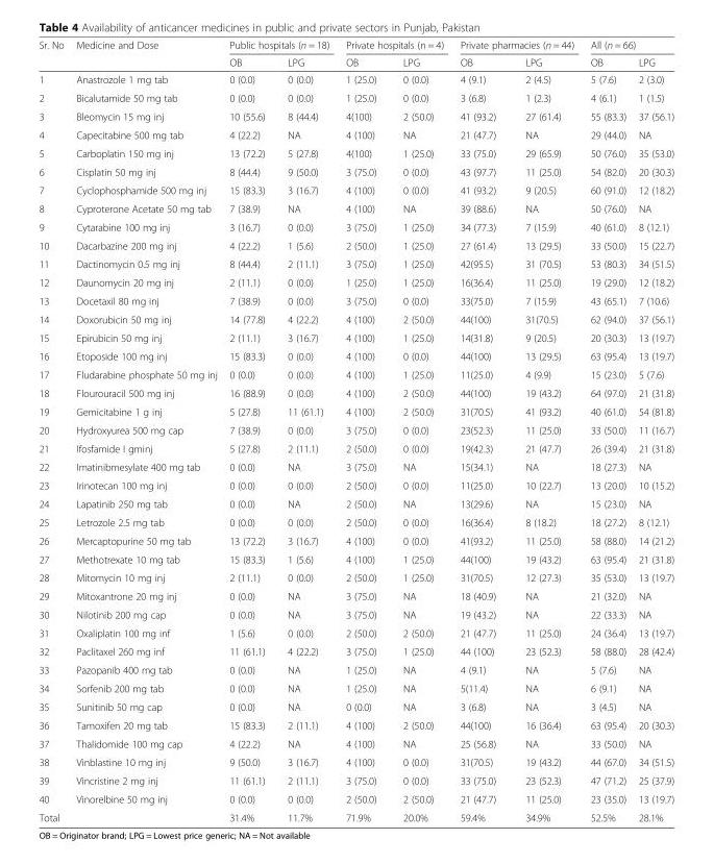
<table><thead><tr><td rowspan="2">Sr. No</td><td rowspan="2">Medicine and Dose</td><td colspan="2">Public hospitals (n = 18)</td><td colspan="2">Private hospitals (n = 4)</td><td colspan="2">Private pharmacies (n = 44)</td><td colspan="2">All (n = 66)</td></tr><tr><td>OB</td><td>LPG</td><td>OB</td><td>LPG</td><td>OB</td><td>LPG</td><td>OB</td><td>LPG</td></tr></thead><tbody><tr><td>1</td><td>Anastrozole 1 mg tab</td><td>0 (0.0)</td><td>0 (0.0)</td><td>1 (25.0)</td><td>0 (0.0)</td><td>4 (9.1)</td><td>2 (4.5)</td><td>5 (7.6)</td><td>2 (3.0)</td></tr><tr><td>2</td><td>Bicalutamide 50 mg tab</td><td>0 (0.0)</td><td>0 (0.0)</td><td>1 (25.0)</td><td>0 (0.0)</td><td>3 (6.8)</td><td>1 (2.3)</td><td>4 (6.1)</td><td>1 (1.5)</td></tr><tr><td>3</td><td>Bleomycin 15 mg inj</td><td>10 (55.6)</td><td>8 (44.4)</td><td>4(100)</td><td>2 (50.0)</td><td>41 (93.2)</td><td>27 (61.4)</td><td>55 (83.3)</td><td>37 (56.1)</td></tr><tr><td>4</td><td>Capecitabine 500 mg tab</td><td>4 (22.2)</td><td>NA</td><td>4 (100)</td><td>NA</td><td>21 (47.7)</td><td>NA</td><td>29 (44.0)</td><td>NA</td></tr><tr><td>5</td><td>Carboplatin 150 mg inj</td><td>13 (72.2)</td><td>5 (27.8)</td><td>4(100)</td><td>1 (25.0)</td><td>33 (75.0)</td><td>29 (65.9)</td><td>50 (76.0)</td><td>35 (53.0)</td></tr><tr><td>6</td><td>Cisplatin 50 mg inj</td><td>8 (44.4)</td><td>9 (50.0)</td><td>3 (75.0)</td><td>0 (0.0)</td><td>43 (97.7)</td><td>11 (25.0)</td><td>54 (82.0)</td><td>20 (30.3)</td></tr><tr><td>7</td><td>Cyclophosphamide 500 mg inj</td><td>15 (83.3)</td><td>3 (16.7)</td><td>4 (100)</td><td>0 (0.0)</td><td>41 (93.2)</td><td>9 (20.5)</td><td>60 (91.0)</td><td>12 (18.2)</td></tr><tr><td>8</td><td>Cyproterone Acetate 50 mg tab</td><td>7 (38.9)</td><td>NA</td><td>4 (100)</td><td>NA</td><td>39 (88.6)</td><td>NA</td><td>50 (76.0)</td><td>NA</td></tr><tr><td>9</td><td>Cytarabine 100 mg inj</td><td>3 (16.7)</td><td>0 (0.0)</td><td>3 (75.0)</td><td>1 (25.0)</td><td>34 (77.3)</td><td>7 (15.9)</td><td>40 (61.0)</td><td>8 (12.1)</td></tr><tr><td>10</td><td>Dacarbazine 200 mg inj</td><td>4 (22.2)</td><td>1 (5.6)</td><td>2 (50.0)</td><td>1 (25.0)</td><td>27 (61.4)</td><td>13 (29.5)</td><td>33 (50.0)</td><td>15 (22.7)</td></tr><tr><td>11</td><td>Dactinomycin 0.5 mg inj</td><td>8 (44.4)</td><td>2 (11.1)</td><td>3 (75.0)</td><td>1 (25.0)</td><td>42(95.5)</td><td>31 (70.5)</td><td>53 (80.3)</td><td>34 (51.5)</td></tr><tr><td>12</td><td>Daunomycin 20 mg inj</td><td>2 (11.1)</td><td>0 (0.0)</td><td>1 (25.0)</td><td>1 (25.0)</td><td>16(36.4)</td><td>11 (25.0)</td><td>19 (29.0)</td><td>12 (18.2)</td></tr><tr><td>13</td><td>Docetaxil 80 mg inj</td><td>7 (38.9)</td><td>0 (0.0)</td><td>3 (75.0)</td><td>0 (0.0)</td><td>33(75.0)</td><td>7 (15.9)</td><td>43 (65.1)</td><td>7 (10.6)</td></tr><tr><td>14</td><td>Doxorubicin 50 mg inj</td><td>14 (77.8)</td><td>4 (22.2)</td><td>4 (100)</td><td>2 (50.0)</td><td>44(100)</td><td>31(70.5)</td><td>62 (94.0)</td><td>37 (56.1)</td></tr><tr><td>15</td><td>Epirubicin 50 mg inj</td><td>2 (11.1)</td><td>3 (16.7)</td><td>4 (100)</td><td>1 (25.0)</td><td>14(31.8)</td><td>9 (20.5)</td><td>20 (30.3)</td><td>13 (19.7)</td></tr><tr><td>16</td><td>Etoposide 100 mg inj</td><td>15 (83.3)</td><td>0 (0.0)</td><td>4 (100)</td><td>0 (0.0)</td><td>44(100)</td><td>13 (29.5)</td><td>63 (95.4)</td><td>13 (19.7)</td></tr><tr><td>17</td><td>Fludarabine phosphate 50 mg inj</td><td>0 (0.0)</td><td>0 (0.0)</td><td>4 (100)</td><td>1 (25.0)</td><td>11(25.0)</td><td>4 (9.9)</td><td>15 (23.0)</td><td>5 (7.6)</td></tr><tr><td>18</td><td>Flourouracil 500 mg inj</td><td>16 (88.9)</td><td>0 (0.0)</td><td>4 (100)</td><td>2 (50.0)</td><td>44(100)</td><td>19 (43.2)</td><td>64 (97.0)</td><td>21 (31.8)</td></tr><tr><td>19</td><td>Gemicitabine 1 g inj</td><td>5 (27.8)</td><td>11 (61.1)</td><td>4 (100)</td><td>2 (50.0)</td><td>31(70.5)</td><td>41 (93.2)</td><td>40 (61.0)</td><td>54 (81.8)</td></tr><tr><td>20</td><td>Hydroxyurea 500 mg cap</td><td>7 (38.9)</td><td>0 (0.0)</td><td>3 (75.0)</td><td>0 (0.0)</td><td>23(52.3)</td><td>11 (25.0)</td><td>33 (50.0)</td><td>11 (16.7)</td></tr><tr><td>21</td><td>Ifosfamide I gminj</td><td>5 (27.8)</td><td>2 (11.1)</td><td>2 (50.0)</td><td>0 (0.0)</td><td>19(42.3)</td><td>21 (47.7)</td><td>26 (39.4)</td><td>21 (31.8)</td></tr><tr><td>22</td><td>Imatinibmesylate 400 mg tab</td><td>0 (0.0)</td><td>NA</td><td>3 (75.0)</td><td>NA</td><td>15(34.1)</td><td>NA</td><td>18 (27.3)</td><td>NA</td></tr><tr><td>23</td><td>Irinotecan 100 mg inj</td><td>0 (0.0)</td><td>0 (0.0)</td><td>2 (50.0)</td><td>0 (0.0)</td><td>11(25.0)</td><td>10 (22.7)</td><td>13 (20.0)</td><td>10 (15.2)</td></tr><tr><td>24</td><td>Lapatinib 250 mg tab</td><td>0 (0.0)</td><td>NA</td><td>2 (50.0)</td><td>NA</td><td>13(29.6)</td><td>NA</td><td>15 (23.0)</td><td>NA</td></tr><tr><td>25</td><td>Letrozole 2.5 mg tab</td><td>0 (0.0)</td><td>0 (0.0)</td><td>2 (50.0)</td><td>0 (0.0)</td><td>16(36.4)</td><td>8 (18.2)</td><td>18 (27.2)</td><td>8 (12.1)</td></tr><tr><td>26</td><td>Mercaptopurine 50 mg tab</td><td>13 (72.2)</td><td>3 (16.7)</td><td>4 (100)</td><td>0 (0.0)</td><td>41(93.2)</td><td>11 (25.0)</td><td>58 (88.0)</td><td>14 (21.2)</td></tr><tr><td>27</td><td>Methotrexate 10 mg tab</td><td>15 (83.3)</td><td>1 (5.6)</td><td>4 (100)</td><td>1 (25.0)</td><td>44(100)</td><td>19 (43.2)</td><td>63 (95.4)</td><td>21 (31.8)</td></tr><tr><td>28</td><td>Mitomycin 10 mg inj</td><td>2 (11.1)</td><td>0 (0.0)</td><td>2 (50.0)</td><td>1 (25.0)</td><td>31(70.5)</td><td>12 (27.3)</td><td>35 (53.0)</td><td>13 (19.7)</td></tr><tr><td>29</td><td>Mitoxantrone 20 mg inj</td><td>0 (0.0)</td><td>NA</td><td>3 (75.0)</td><td>NA</td><td>18 (40.9)</td><td>NA</td><td>21 (32.0)</td><td>NA</td></tr><tr><td>30</td><td>Nilotinib 200 mg cap</td><td>0 (0.0)</td><td>NA</td><td>3 (75.0)</td><td>NA</td><td>19 (43.2)</td><td>NA</td><td>22 (33.3)</td><td>NA</td></tr><tr><td>31</td><td>Oxaliplatin 100 mg inf</td><td>1 (5.6)</td><td>0 (0.0)</td><td>2 (50.0)</td><td>2 (50.0)</td><td>21 (47.7)</td><td>11 (25.0)</td><td>24 (36.4)</td><td>13 (19.7)</td></tr><tr><td>32</td><td>Paclitaxel 260 mg inf</td><td>11 (61.1)</td><td>4 (22.2)</td><td>3 (75.0)</td><td>1 (25.0)</td><td>44 (100)</td><td>23 (52.3)</td><td>58 (88.0)</td><td>28 (42.4)</td></tr><tr><td>33</td><td>Pazopanib 400 mg tab</td><td>0 (0.0)</td><td>NA</td><td>1 (25.0)</td><td>NA</td><td>4 (9.1)</td><td>NA</td><td>5 (7.6)</td><td>NA</td></tr><tr><td>34</td><td>Sorfenib 200 mg tab</td><td>0 (0.0)</td><td>NA</td><td>1 (25.0)</td><td>NA</td><td>5(11.4)</td><td>NA</td><td>6 (9.1)</td><td>NA</td></tr><tr><td>35</td><td>Sunitinib 50 mg cap</td><td>0 (0.0)</td><td>NA</td><td>0 (0.0)</td><td>NA</td><td>3 (6.8)</td><td>NA</td><td>3 (4.5)</td><td>NA</td></tr><tr><td>36</td><td>Tamoxifen 20 mg tab</td><td>15 (83.3)</td><td>2 (11.1)</td><td>4 (100)</td><td>2 (50.0)</td><td>44(100)</td><td>16 (36.4)</td><td>63 (95.4)</td><td>20 (30.3)</td></tr><tr><td>37</td><td>Thalidomide 100 mg cap</td><td>4 (22.2)</td><td>NA</td><td>4 (100)</td><td>NA</td><td>25 (56.8)</td><td>NA</td><td>33 (50.0)</td><td>NA</td></tr><tr><td>38</td><td>Vinblastine 10 mg inj</td><td>9 (50.0)</td><td>3 (16.7)</td><td>4 (100)</td><td>0 (0.0)</td><td>31(70.5)</td><td>19 (43.2)</td><td>44 (67.0)</td><td>34 (51.5)</td></tr><tr><td>39</td><td>Vincristine 2 mg inj</td><td>11 (61.1)</td><td>2 (11.1)</td><td>3 (75.0)</td><td>0 (0.0)</td><td>33 (75.0)</td><td>23 (52.3)</td><td>47 (71.2)</td><td>25 (37.9)</td></tr><tr><td>40</td><td>Vinorelbine 50 mg inj</td><td>0 (0.0)</td><td>0 (0.0)</td><td>2 (50.0)</td><td>2 (50.0)</td><td>21 (47.7)</td><td>11 (25.0)</td><td>23 (35.0)</td><td>13 (19.7)</td></tr><tr><td colspan="2">Total</td><td>31.4%</td><td>11.7%</td><td>71.9%</td><td>20.0%</td><td>59.4%</td><td>34.9%</td><td>52.5%</td><td>28.1%</td></tr></tbody></table>